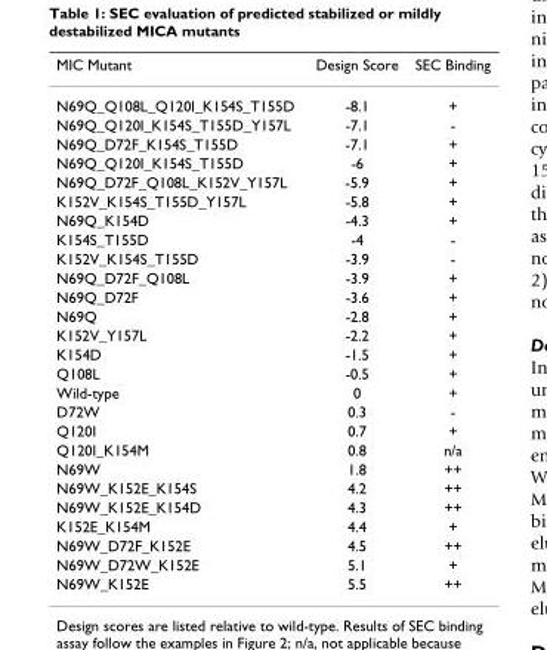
<table><thead><tr><td>MIC Mutant</td><td>Design Score</td><td>SEC Binding</td></tr></thead><tbody><tr><td>N69Q_Q108L_Q120I_K154S_T155D</td><td>-8.1</td><td>+</td></tr><tr><td>N69Q_Q120I_K154S_T155D_Y157L</td><td>-7.1</td><td>-</td></tr><tr><td>N69Q_D72F_K154S_T155D</td><td>-7.1</td><td>+</td></tr><tr><td>N69Q_Q120I_K154S_T155D</td><td>-6</td><td>+</td></tr><tr><td>N69Q_D72F_Q108L_K152V_Y157L</td><td>-5.9</td><td>+</td></tr><tr><td>K152V_K154S_T155D_Y157L</td><td>-5.8</td><td>+</td></tr><tr><td>N69Q_K154D</td><td>-4.3</td><td>+</td></tr><tr><td>K154S_T155D</td><td>-4</td><td>-</td></tr><tr><td>K152V_K154S_T155D</td><td>-3.9</td><td>-</td></tr><tr><td>N69Q_D72F_Q108L</td><td>-3.9</td><td>+</td></tr><tr><td>N69Q_D72F</td><td>-3.6</td><td>+</td></tr><tr><td>N69Q</td><td>-2.8</td><td>+</td></tr><tr><td>K152V_Y157L</td><td>-2.2</td><td>+</td></tr><tr><td>K154D</td><td>-1.5</td><td>+</td></tr><tr><td>Q108L</td><td>-0.5</td><td>+</td></tr><tr><td>Wild-type</td><td>0</td><td>+</td></tr><tr><td>D72W</td><td>0.3</td><td>-</td></tr><tr><td>Q120I</td><td>0.7</td><td>+</td></tr><tr><td>Q120I_K154M</td><td>0.8</td><td>n/a</td></tr><tr><td>N69W</td><td>1.8</td><td>++</td></tr><tr><td>N69W_K152E_K154S</td><td>4.2</td><td>++</td></tr><tr><td>N69W_K152E_K154D</td><td>4.3</td><td>++</td></tr><tr><td>K152E_K154M</td><td>4.4</td><td>+</td></tr><tr><td>N69W_D72F_K152E</td><td>4.5</td><td>++</td></tr><tr><td>N69W_D72W_K152E</td><td>5.1</td><td>+</td></tr><tr><td>N69W_K152E</td><td>5.5</td><td>++</td></tr></tbody></table>